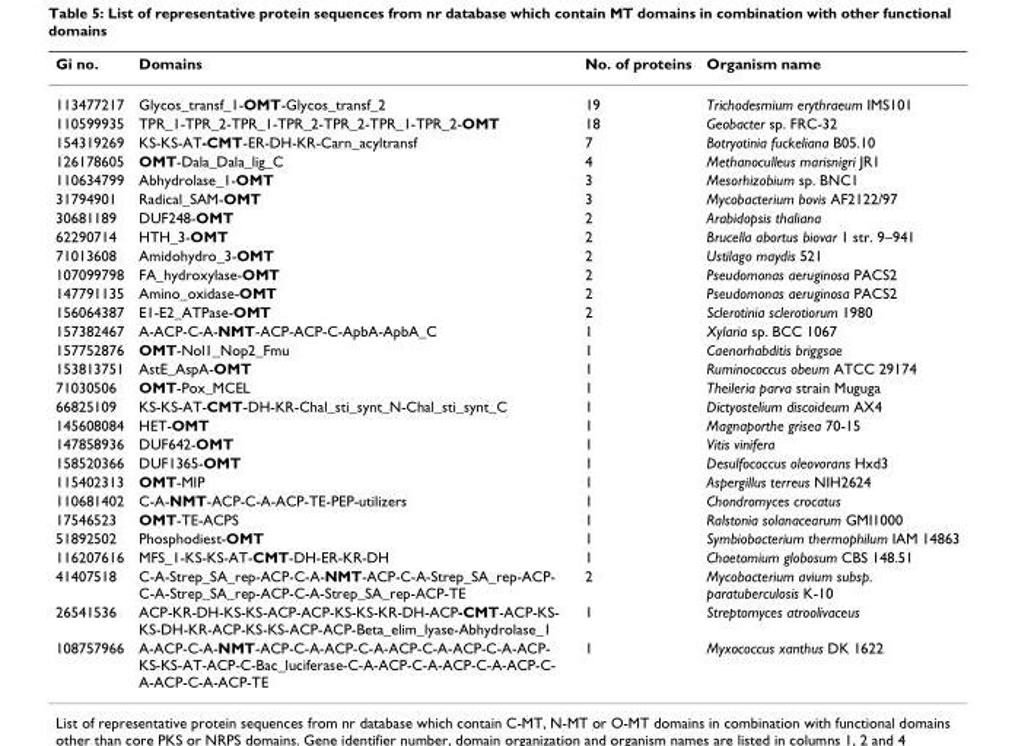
<table><thead><tr><td>Gi no.</td><td>Domains</td><td>No. of proteins</td><td>Organism name</td></tr></thead><tbody><tr><td>113477217</td><td>Glycos_transf_1-OMT-Glycos_transf_2</td><td>19</td><td>Trichodesmium erythraeum IMS101</td></tr><tr><td>110599935</td><td>TPR_1-TPR_2-TPR_1-TPR_2-TPR_2-TPR_1-TPR_2-OMT</td><td>18</td><td>Geobacter sp. FRC-32</td></tr><tr><td>154319269</td><td>KS-KS-AT-CMT-ER-DH-KR-Carn_acyltransf</td><td>7</td><td>Botryotinia fuckeliana B05.10</td></tr><tr><td>126178605</td><td>OMT-Dala_Dala_lig_C</td><td>4</td><td>Methanoculleus marisnigri JR1</td></tr><tr><td>110634799</td><td>Abhydrolase_1-OMT</td><td>3</td><td>Mesorhizobium sp. BNC1</td></tr><tr><td>31794901</td><td>Radical_SAM-OMT</td><td>3</td><td>Mycobacterium bovis AF2122/97</td></tr><tr><td>30681189</td><td>DUF248-OMT</td><td>2</td><td>Arabidopsis thaliana</td></tr><tr><td>62290714</td><td>HTH_3-OMT</td><td>2</td><td>Brucella abortus biovar 1 str. 9–941</td></tr><tr><td>71013608</td><td>Amidohydro_3-OMT</td><td>2</td><td>Ustilago maydis 521</td></tr><tr><td>107099798</td><td>FA_hydroxylase-OMT</td><td>2</td><td>Pseudomonas aeruginosa PACS2</td></tr><tr><td>147791135</td><td>Amino_oxidase-OMT</td><td>2</td><td>Pseudomonas aeruginosa PACS2</td></tr><tr><td>156064387</td><td>E1-E2_ATPase-OMT</td><td>2</td><td>Sclerotinia sclerotiorum 1980</td></tr><tr><td>157382467</td><td>A-ACP-C-A-NMT-ACP-ACP-C-ApbA-ApbA_C</td><td>1</td><td>Xylaria sp. BCC 1067</td></tr><tr><td>157752876</td><td>OMT-Nol1_Nop2_Fmu</td><td>1</td><td>Caenorhabditis briggsae</td></tr><tr><td>153813751</td><td>AstE_AspA-OMT</td><td>1</td><td>Ruminococcus obeum ATCC 29174</td></tr><tr><td>71030506</td><td>OMT-Pox_MCEL</td><td>1</td><td>Theileria parva strain Muguga</td></tr><tr><td>66825109</td><td>KS-KS-AT-CMT-DH-KR-Chal_sti_synt_N-Chal_sti_synt_C</td><td>1</td><td>Dictyostelium discoideum AX4</td></tr><tr><td>145608084</td><td>HET-OMT</td><td>1</td><td>Magnaporthe grisea 70-15</td></tr><tr><td>147858936</td><td>DUF642-OMT</td><td>1</td><td>Vitis vinifera</td></tr><tr><td>158520366</td><td>DUF1365-OMT</td><td>1</td><td>Desulfococcus oleovorans Hxd3</td></tr><tr><td>115402313</td><td>OMT-MIP</td><td>1</td><td>Aspergillus terreus NIH2624</td></tr><tr><td>110681402</td><td>C-A-NMT-ACP-C-A-ACP-TE-PEP-utilizers</td><td>1</td><td>Chondromyces crocatus</td></tr><tr><td>17546523</td><td>OMT-TE-ACPS</td><td>1</td><td>Ralstonia solanacearum GMI1000</td></tr><tr><td>51892502</td><td>Phosphodiest-OMT</td><td>1</td><td>Symbiobacterium thermophilum IAM 14863</td></tr><tr><td>116207616</td><td>MFS_1-KS-KS-AT-CMT-DH-ER-KR-DH</td><td>1</td><td>Chaetomium globosum CBS 148.51</td></tr><tr><td>41407518</td><td>C-A-Strep_SA_rep-ACP-C-A-NMT-ACP-C-A-Strep_SA_rep-ACP- C-A-Strep_SA_rep-ACP-C-A-Strep_SA_rep-ACP-TE</td><td>2</td><td>Mycobacterium avium subsp. paratuberculosis K-10</td></tr><tr><td>26541536</td><td>ACP-KR-DH-KS-KS-ACP-ACP-KS-KS-KR-DH-ACP-CMT-ACP-KS- KS-DH-KR-ACP-KS-KS-ACP-ACP-Beta_elim_lyase-Abhydrolase_1</td><td>1</td><td>Streptomyces atroolivaceus</td></tr><tr><td>108757966</td><td>A-ACP-C-A-NMT-ACP-C-A-ACP-C-A-ACP-C-A-ACP-C-A-ACP- KS-KS-AT-ACP-C-Bac_luciferase-C-A-ACP-C-A-ACP-C-A-ACP-C- A-ACP-C-A-ACP-TE</td><td>1</td><td>Myxococcus xanthus DK 1622</td></tr></tbody></table>